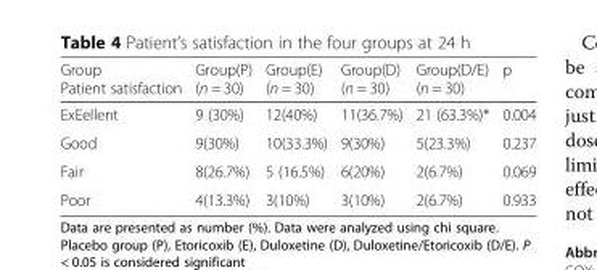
<table><thead><tr><td>Group Patient satisfaction</td><td>Group(P) (n = 30)</td><td>Group(E) (n = 30)</td><td>Group(D) (n = 30)</td><td>Group(D/E) (n = 30)</td><td>p</td></tr></thead><tbody><tr><td>ExEellent</td><td>9 (30%)</td><td>12(40%)</td><td>11(36.7%)</td><td>21 (63.3%)*</td><td>0.004</td></tr><tr><td>Good</td><td>9(30%)</td><td>10(33.3%)</td><td>9(30%)</td><td>5(23.3%)</td><td>0.237</td></tr><tr><td>Fair</td><td>8(26.7%)</td><td>5 (16.5%)</td><td>6(20%)</td><td>2(6.7%)</td><td>0.069</td></tr><tr><td>Poor</td><td>4(13.3%)</td><td>3(10%)</td><td>3(10%)</td><td>2(6.7%)</td><td>0.933</td></tr></tbody></table>